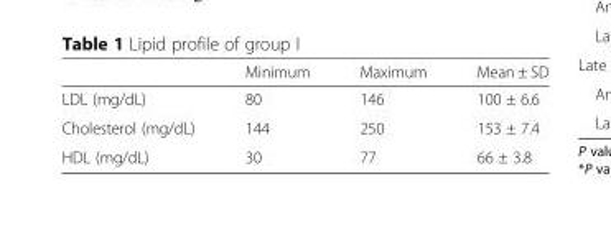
<table><thead><tr><td></td><td>Minimum</td><td>Maximum</td><td>Mean ± SD</td></tr></thead><tbody><tr><td>LDL (mg/dL)</td><td>80</td><td>146</td><td>100 ± 6.6</td></tr><tr><td>Cholesterol (mg/dL)</td><td>144</td><td>250</td><td>153 ± 7.4</td></tr><tr><td>HDL (mg/dL)</td><td>30</td><td>77</td><td>66 ± 3.8</td></tr></tbody></table>